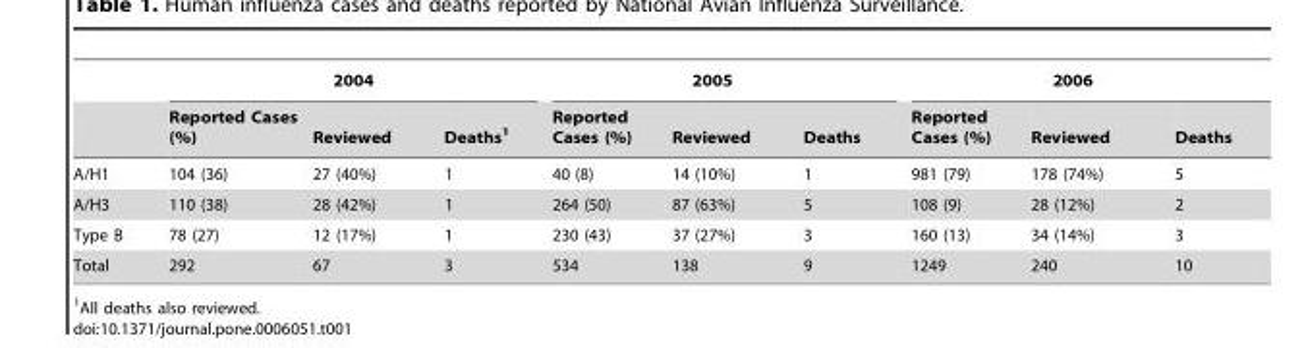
<table><thead><tr><td rowspan="2"></td><td colspan="3">2004</td><td colspan="3">2005</td><td colspan="3">2006</td></tr><tr><td>Reported Cases (%)</td><td>Reviewed</td><td>Deaths<sup>1</sup></td><td>Reported Cases (%)</td><td>Reviewed</td><td>Deaths</td><td>Reported Cases (%)</td><td>Reviewed</td><td>Deaths</td></tr></thead><tbody><tr><td>A/H1</td><td>104 (36)</td><td>27 (40%)</td><td>1</td><td>40 (8)</td><td>14 (10%)</td><td>1</td><td>981 (79)</td><td>178 (74%)</td><td>5</td></tr><tr><td>A/H3</td><td>110 (38)</td><td>28 (42%)</td><td>1</td><td>264 (50)</td><td>87 (63%)</td><td>5</td><td>108 (9)</td><td>28 (12%)</td><td>2</td></tr><tr><td>Type B</td><td>78 (27)</td><td>12 (17%)</td><td>1</td><td>230 (43)</td><td>37 (27%)</td><td>3</td><td>160 (13)</td><td>34 (14%)</td><td>3</td></tr><tr><td>Total</td><td>292</td><td>67</td><td>3</td><td>534</td><td>138</td><td>9</td><td>1249</td><td>240</td><td>10</td></tr></tbody></table>